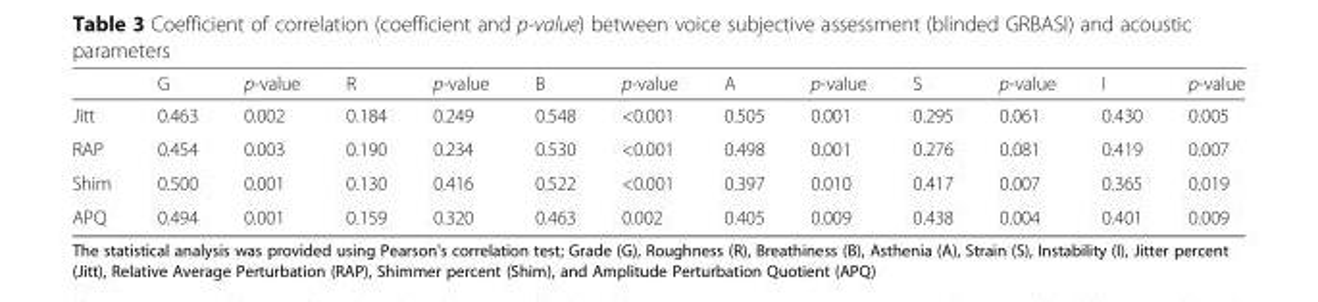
<table><thead><tr><td></td><td>G</td><td>p-value</td><td>R</td><td>p-value</td><td>B</td><td>p-value</td><td>A</td><td>p-value</td><td>S</td><td>p-value</td><td>I</td><td>p-value</td></tr></thead><tbody><tr><td>Jitt</td><td>0.463</td><td>0.002</td><td>0.184</td><td>0.249</td><td>0.548</td><td>&lt;0.001</td><td>0.505</td><td>0.001</td><td>0.295</td><td>0.061</td><td>0.430</td><td>0.005</td></tr><tr><td>RAP</td><td>0.454</td><td>0.003</td><td>0.190</td><td>0.234</td><td>0.530</td><td>&lt;0.001</td><td>0.498</td><td>0.001</td><td>0.276</td><td>0.081</td><td>0.419</td><td>0.007</td></tr><tr><td>Shim</td><td>0.500</td><td>0.001</td><td>0.130</td><td>0.416</td><td>0.522</td><td>&lt;0.001</td><td>0.397</td><td>0.010</td><td>0.417</td><td>0.007</td><td>0.365</td><td>0.019</td></tr><tr><td>APQ</td><td>0.494</td><td>0.001</td><td>0.159</td><td>0.320</td><td>0.463</td><td>0.002</td><td>0.405</td><td>0.009</td><td>0.438</td><td>0.004</td><td>0.401</td><td>0.009</td></tr></tbody></table>